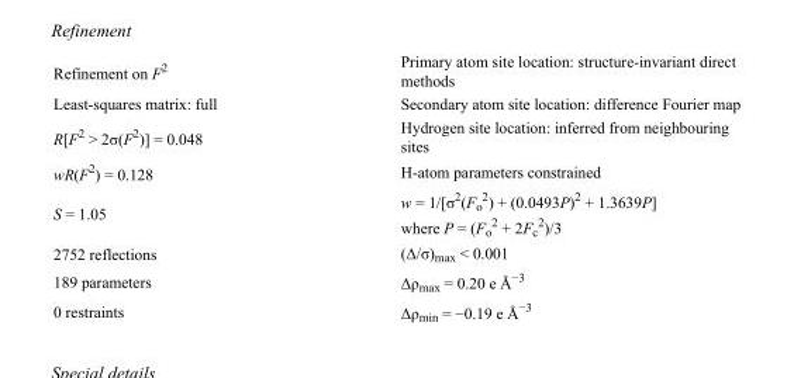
<table><tbody><tr><td>Refinement on F<sup>2</sup></td><td>Primary atom site location: structure-invariant direct methods</td></tr><tr><td>Least-squares matrix: full</td><td>Secondary atom site location: difference Fourier map</td></tr><tr><td>R[F<sup>2</sup> &gt; 2σ(F<sup>2</sup>)] = 0.048</td><td>Hydrogen site location: inferred from neighbouring sites</td></tr><tr><td>wR(F<sup>2</sup>) = 0.128</td><td>H-atom parameters constrained</td></tr><tr><td>S = 1.05</td><td>w = 1/[σ<sup>2</sup>(F<sub>o</sub> <sup>2</sup>) + (0.0493P)<sup>2</sup> + 1.3639P] where P = (F<sub>o</sub> <sup>2</sup> + 2F<sub>c</sub> <sup>2</sup>)/3</td></tr><tr><td>2752 reflections</td><td>(Δ/σ)<sub>max</sub> &lt; 0.001</td></tr><tr><td>189 parameters</td><td>Δρ<sub>max</sub> = 0.20 e Å<sup>−3</sup></td></tr><tr><td>0 restraints</td><td>Δρ<sub>min</sub> = −0.19 e Å<sup>−3</sup></td></tr></tbody></table>